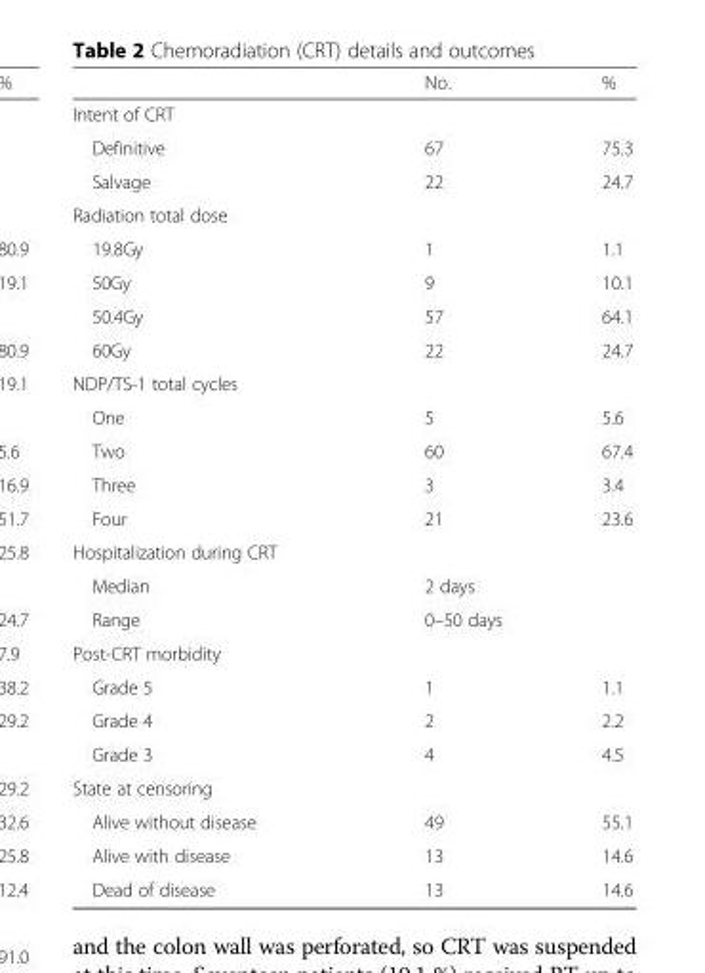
<table><thead><tr><td></td><td>No.</td><td>%</td></tr></thead><tbody><tr><td colspan="3">Intent of CRT</td></tr><tr><td>Definitive</td><td>67</td><td>75.3</td></tr><tr><td>Salvage</td><td>22</td><td>24.7</td></tr><tr><td colspan="3">Radiation total dose</td></tr><tr><td>19.8Gy</td><td>1</td><td>1.1</td></tr><tr><td>50Gy</td><td>9</td><td>10.1</td></tr><tr><td>50.4Gy</td><td>57</td><td>64.1</td></tr><tr><td>60Gy</td><td>22</td><td>24.7</td></tr><tr><td colspan="3">NDP/TS-1 total cycles</td></tr><tr><td>One</td><td>5</td><td>5.6</td></tr><tr><td>Two</td><td>60</td><td>67.4</td></tr><tr><td>Three</td><td>3</td><td>3.4</td></tr><tr><td>Four</td><td>21</td><td>23.6</td></tr><tr><td colspan="3">Hospitalization during CRT</td></tr><tr><td>Median</td><td colspan="2">2 days</td></tr><tr><td>Range</td><td colspan="2">0–50 days</td></tr><tr><td colspan="3">Post-CRT morbidity</td></tr><tr><td>Grade 5</td><td>1</td><td>1.1</td></tr><tr><td>Grade 4</td><td>2</td><td>2.2</td></tr><tr><td>Grade 3</td><td>4</td><td>4.5</td></tr><tr><td colspan="3">State at censoring</td></tr><tr><td>Alive without disease</td><td>49</td><td>55.1</td></tr><tr><td>Alive with disease</td><td>13</td><td>14.6</td></tr><tr><td>Dead of disease</td><td>13</td><td>14.6</td></tr></tbody></table>